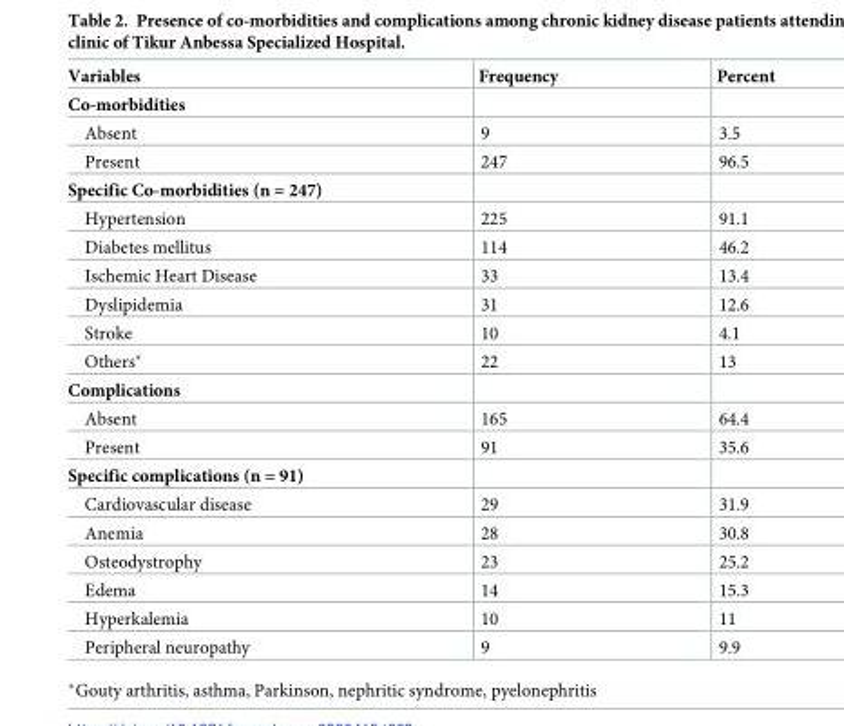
<table><thead><tr><td>Variables</td><td>Frequency</td><td>Percent</td></tr></thead><tbody><tr><td colspan="3">Co-morbidities</td></tr><tr><td>Absent</td><td>9</td><td>3.5</td></tr><tr><td>Present</td><td>247</td><td>96.5</td></tr><tr><td colspan="3">Specific Co-morbidities (n = 247)</td></tr><tr><td>Hypertension</td><td>225</td><td>91.1</td></tr><tr><td>Diabetes mellitus</td><td>114</td><td>46.2</td></tr><tr><td>Ischemic Heart Disease</td><td>33</td><td>13.4</td></tr><tr><td>Dyslipidemia</td><td>31</td><td>12.6</td></tr><tr><td>Stroke</td><td>10</td><td>4.1</td></tr><tr><td>Others*</td><td>22</td><td>13</td></tr><tr><td colspan="3">Complications</td></tr><tr><td>Absent</td><td>165</td><td>64.4</td></tr><tr><td>Present</td><td>91</td><td>35.6</td></tr><tr><td colspan="3">Specific complications (n = 91)</td></tr><tr><td>Cardiovascular disease</td><td>29</td><td>31.9</td></tr><tr><td>Anemia</td><td>28</td><td>30.8</td></tr><tr><td>Osteodystrophy</td><td>23</td><td>25.2</td></tr><tr><td>Edema</td><td>14</td><td>15.3</td></tr><tr><td>Hyperkalemia</td><td>10</td><td>11</td></tr><tr><td>Peripheral neuropathy</td><td>9</td><td>9.9</td></tr></tbody></table>